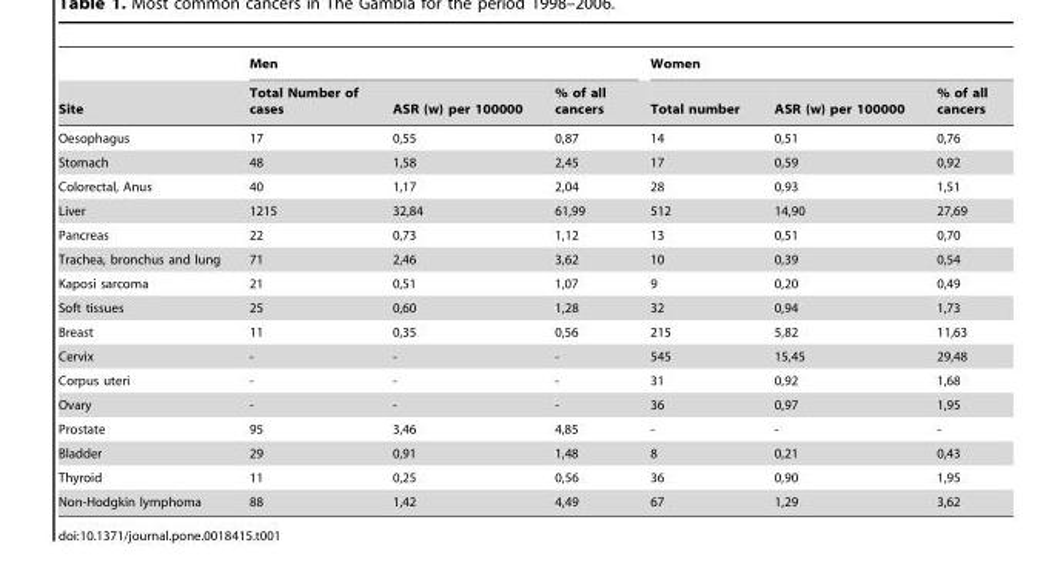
<table><thead><tr><td rowspan="2">Site</td><td colspan="3">Men</td><td colspan="3">Women</td></tr><tr><td>Total Number of cases</td><td>ASR (w) per 100000</td><td>% of all cancers</td><td>Total number</td><td>ASR (w) per 100000</td><td>% of all cancers</td></tr></thead><tbody><tr><td>Oesophagus</td><td>17</td><td>0,55</td><td>0,87</td><td>14</td><td>0,51</td><td>0,76</td></tr><tr><td>Stomach</td><td>48</td><td>1,58</td><td>2,45</td><td>17</td><td>0,59</td><td>0,92</td></tr><tr><td>Colorectal, Anus</td><td>40</td><td>1,17</td><td>2,04</td><td>28</td><td>0,93</td><td>1,51</td></tr><tr><td>Liver</td><td>1215</td><td>32,84</td><td>61,99</td><td>512</td><td>14,90</td><td>27,69</td></tr><tr><td>Pancreas</td><td>22</td><td>0,73</td><td>1,12</td><td>13</td><td>0,51</td><td>0,70</td></tr><tr><td>Trachea, bronchus and lung</td><td>71</td><td>2,46</td><td>3,62</td><td>10</td><td>0,39</td><td>0,54</td></tr><tr><td>Kaposi sarcoma</td><td>21</td><td>0,51</td><td>1,07</td><td>9</td><td>0,20</td><td>0,49</td></tr><tr><td>Soft tissues</td><td>25</td><td>0,60</td><td>1,28</td><td>32</td><td>0,94</td><td>1,73</td></tr><tr><td>Breast</td><td>11</td><td>0,35</td><td>0,56</td><td>215</td><td>5,82</td><td>11,63</td></tr><tr><td>Cervix</td><td>-</td><td>-</td><td>-</td><td>545</td><td>15,45</td><td>29,48</td></tr><tr><td>Corpus uteri</td><td>-</td><td>-</td><td>-</td><td>31</td><td>0,92</td><td>1,68</td></tr><tr><td>Ovary</td><td>-</td><td>-</td><td>-</td><td>36</td><td>0,97</td><td>1,95</td></tr><tr><td>Prostate</td><td>95</td><td>3,46</td><td>4,85</td><td>-</td><td>-</td><td>-</td></tr><tr><td>Bladder</td><td>29</td><td>0,91</td><td>1,48</td><td>8</td><td>0,21</td><td>0,43</td></tr><tr><td>Thyroid</td><td>11</td><td>0,25</td><td>0,56</td><td>36</td><td>0,90</td><td>1,95</td></tr><tr><td>Non-Hodgkin lymphoma</td><td>88</td><td>1,42</td><td>4,49</td><td>67</td><td>1,29</td><td>3,62</td></tr></tbody></table>